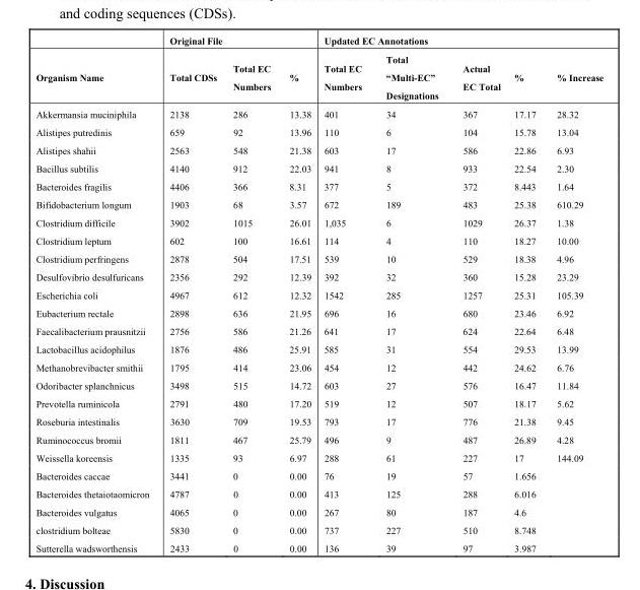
<table><thead><tr><td rowspan="2">Organism Name</td><td colspan="3">Original File</td><td colspan="5">Updated EC Annotations</td></tr><tr><td>Total CDSs</td><td>Total EC Numbers</td><td>%</td><td>Total EC Numbers</td><td>Total “Multi-EC” Designations</td><td>Actual EC Total</td><td>%</td><td>% Increase</td></tr></thead><tbody><tr><td>Akkermansia muciniphila</td><td>2138</td><td>286</td><td>13.38</td><td>401</td><td>34</td><td>367</td><td>17.17</td><td>28.32</td></tr><tr><td>Alistipes putredinis</td><td>659</td><td>92</td><td>13.96</td><td>110</td><td>6</td><td>104</td><td>15.78</td><td>13.04</td></tr><tr><td>Alistipes shahii</td><td>2563</td><td>548</td><td>21.38</td><td>603</td><td>17</td><td>586</td><td>22.86</td><td>6.93</td></tr><tr><td>Bacillus subtilis</td><td>4140</td><td>912</td><td>22.03</td><td>941</td><td>8</td><td>933</td><td>22.54</td><td>2.30</td></tr><tr><td>Bacteroides fragilis</td><td>4406</td><td>366</td><td>8.31</td><td>377</td><td>5</td><td>372</td><td>8.443</td><td>1.64</td></tr><tr><td>Bifidobacterium longum</td><td>1903</td><td>68</td><td>3.57</td><td>672</td><td>189</td><td>483</td><td>25.38</td><td>610.29</td></tr><tr><td>Clostridium difficile</td><td>3902</td><td>1015</td><td>26.01</td><td>1,035</td><td>6</td><td>1029</td><td>26.37</td><td>1.38</td></tr><tr><td>Clostridium leptum</td><td>602</td><td>100</td><td>16.61</td><td>114</td><td>4</td><td>110</td><td>18.27</td><td>10.00</td></tr><tr><td>Clostridium perfringens</td><td>2878</td><td>504</td><td>17.51</td><td>539</td><td>10</td><td>529</td><td>18.38</td><td>4.96</td></tr><tr><td>Desulfovibrio desulfuricans</td><td>2356</td><td>292</td><td>12.39</td><td>392</td><td>32</td><td>360</td><td>15.28</td><td>23.29</td></tr><tr><td>Escherichia coli</td><td>4967</td><td>612</td><td>12.32</td><td>1542</td><td>285</td><td>1257</td><td>25.31</td><td>105.39</td></tr><tr><td>Eubacterium rectale</td><td>2898</td><td>636</td><td>21.95</td><td>696</td><td>16</td><td>680</td><td>23.46</td><td>6.92</td></tr><tr><td>Faecalibacterium prausnitzii</td><td>2756</td><td>586</td><td>21.26</td><td>641</td><td>17</td><td>624</td><td>22.64</td><td>6.48</td></tr><tr><td>Lactobacillus acidophilus</td><td>1876</td><td>486</td><td>25.91</td><td>585</td><td>31</td><td>554</td><td>29.53</td><td>13.99</td></tr><tr><td>Methanobrevibacter smithii</td><td>1795</td><td>414</td><td>23.06</td><td>454</td><td>12</td><td>442</td><td>24.62</td><td>6.76</td></tr><tr><td>Odoribacter splanchnicus</td><td>3498</td><td>515</td><td>14.72</td><td>603</td><td>27</td><td>576</td><td>16.47</td><td>11.84</td></tr><tr><td>Prevotella ruminicola</td><td>2791</td><td>480</td><td>17.20</td><td>519</td><td>12</td><td>507</td><td>18.17</td><td>5.62</td></tr><tr><td>Roseburia intestinalis</td><td>3630</td><td>709</td><td>19.53</td><td>793</td><td>17</td><td>776</td><td>21.38</td><td>9.45</td></tr><tr><td>Ruminococcus bromii</td><td>1811</td><td>467</td><td>25.79</td><td>496</td><td>9</td><td>487</td><td>26.89</td><td>4.28</td></tr><tr><td>Weissella koreensis</td><td>1335</td><td>93</td><td>6.97</td><td>288</td><td>61</td><td>227</td><td>17</td><td>144.09</td></tr><tr><td>Bacteroides caccae</td><td>3441</td><td>0</td><td>0.00</td><td>76</td><td>19</td><td>57</td><td>1.656</td><td></td></tr><tr><td>Bacteroides thetaiotaomicron</td><td>4787</td><td>0</td><td>0.00</td><td>413</td><td>125</td><td>288</td><td>6.016</td><td></td></tr><tr><td>Bacteroides vulgatus</td><td>4065</td><td>0</td><td>0.00</td><td>267</td><td>80</td><td>187</td><td>4.6</td><td></td></tr><tr><td>clostridium bolteae</td><td>5830</td><td>0</td><td>0.00</td><td>737</td><td>227</td><td>510</td><td>8.748</td><td></td></tr><tr><td>Sutterella wadsworthensis</td><td>2433</td><td>0</td><td>0.00</td><td>136</td><td>39</td><td>97</td><td>3.987</td><td></td></tr></tbody></table>